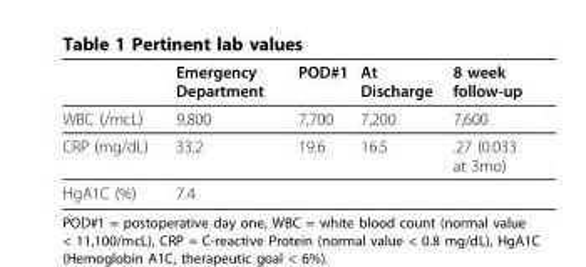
<table><thead><tr><td></td><td>Emergency Department</td><td>POD#1</td><td>At Discharge</td><td>8 week follow-up</td></tr></thead><tbody><tr><td>WBC (/mcL)</td><td>9,800</td><td>7,700</td><td>7,200</td><td>7,600</td></tr><tr><td>CRP (mg/dL)</td><td>33.2</td><td>19.6</td><td>16.5</td><td>.27 (0.033 at 3mo)</td></tr><tr><td>HgA1C (%)</td><td>7.4</td><td></td><td></td><td></td></tr></tbody></table>